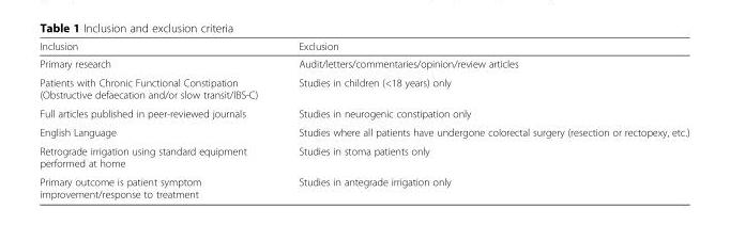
<table><thead><tr><td>Inclusion</td><td>Exclusion</td></tr></thead><tbody><tr><td>Primary research</td><td>Audit/letters/commentaries/opinion/review articles</td></tr><tr><td>Patients with Chronic Functional Constipation (Obstructive defaecation and/or slow transit/IBS-C)</td><td>Studies in children (&lt;18 years) only</td></tr><tr><td>Full articles published in peer-reviewed journals</td><td>Studies in neurogenic constipation only</td></tr><tr><td>English Language</td><td>Studies where all patients have undergone colorectal surgery (resection or rectopexy, etc.)</td></tr><tr><td>Retrograde irrigation using standard equipment performed at home</td><td>Studies in stoma patients only</td></tr><tr><td>Primary outcome is patient symptom improvement/response to treatment</td><td>Studies in antegrade irrigation only</td></tr></tbody></table>